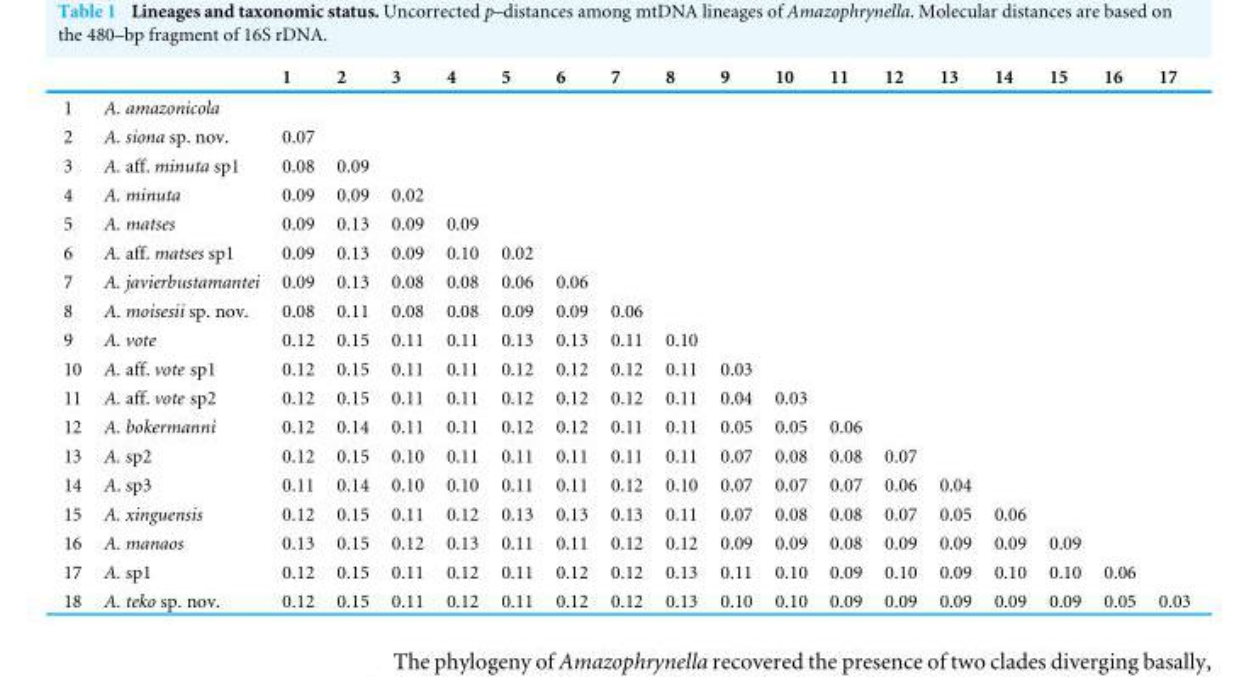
<table><thead><tr><td></td><td></td><td>1</td><td>2</td><td>3</td><td>4</td><td>5</td><td>6</td><td>7</td><td>8</td><td>9</td><td>10</td><td>11</td><td>12</td><td>13</td><td>14</td><td>15</td><td>16</td><td>17</td></tr></thead><tbody><tr><td>1</td><td>A. amazonicola</td><td></td><td></td><td></td><td></td><td></td><td></td><td></td><td></td><td></td><td></td><td></td><td></td><td></td><td></td><td></td><td></td><td></td></tr><tr><td>2</td><td>A. siona sp. nov.</td><td>0.07</td><td></td><td></td><td></td><td></td><td></td><td></td><td></td><td></td><td></td><td></td><td></td><td></td><td></td><td></td><td></td><td></td></tr><tr><td>3</td><td>A. aff. minuta sp1</td><td>0.08</td><td>0.09</td><td></td><td></td><td></td><td></td><td></td><td></td><td></td><td></td><td></td><td></td><td></td><td></td><td></td><td></td><td></td></tr><tr><td>4</td><td>A. minuta</td><td>0.09</td><td>0.09</td><td>0.02</td><td></td><td></td><td></td><td></td><td></td><td></td><td></td><td></td><td></td><td></td><td></td><td></td><td></td><td></td></tr><tr><td>5</td><td>A. matses</td><td>0.09</td><td>0.13</td><td>0.09</td><td>0.09</td><td></td><td></td><td></td><td></td><td></td><td></td><td></td><td></td><td></td><td></td><td></td><td></td><td></td></tr><tr><td>6</td><td>A. aff. matses sp1</td><td>0.09</td><td>0.13</td><td>0.09</td><td>0.10</td><td>0.02</td><td></td><td></td><td></td><td></td><td></td><td></td><td></td><td></td><td></td><td></td><td></td><td></td></tr><tr><td>7</td><td>A. javierbustamantei</td><td>0.09</td><td>0.13</td><td>0.08</td><td>0.08</td><td>0.06</td><td>0.06</td><td></td><td></td><td></td><td></td><td></td><td></td><td></td><td></td><td></td><td></td><td></td></tr><tr><td>8</td><td>A. moisesii sp. nov.</td><td>0.08</td><td>0.11</td><td>0.08</td><td>0.08</td><td>0.09</td><td>0.09</td><td>0.06</td><td></td><td></td><td></td><td></td><td></td><td></td><td></td><td></td><td></td><td></td></tr><tr><td>9</td><td>A. vote</td><td>0.12</td><td>0.15</td><td>0.11</td><td>0.11</td><td>0.13</td><td>0.13</td><td>0.11</td><td>0.10</td><td></td><td></td><td></td><td></td><td></td><td></td><td></td><td></td><td></td></tr><tr><td>10</td><td>A. aff. vote sp1</td><td>0.12</td><td>0.15</td><td>0.11</td><td>0.11</td><td>0.12</td><td>0.12</td><td>0.12</td><td>0.11</td><td>0.03</td><td></td><td></td><td></td><td></td><td></td><td></td><td></td><td></td></tr><tr><td>11</td><td>A. aff. vote sp2</td><td>0.12</td><td>0.15</td><td>0.11</td><td>0.11</td><td>0.12</td><td>0.12</td><td>0.12</td><td>0.11</td><td>0.04</td><td>0.03</td><td></td><td></td><td></td><td></td><td></td><td></td><td></td></tr><tr><td>12</td><td>A. bokermanni</td><td>0.12</td><td>0.14</td><td>0.11</td><td>0.11</td><td>0.12</td><td>0.12</td><td>0.11</td><td>0.11</td><td>0.05</td><td>0.05</td><td>0.06</td><td></td><td></td><td></td><td></td><td></td><td></td></tr><tr><td>13</td><td>A. sp2</td><td>0.12</td><td>0.15</td><td>0.10</td><td>0.11</td><td>0.11</td><td>0.11</td><td>0.11</td><td>0.11</td><td>0.07</td><td>0.08</td><td>0.08</td><td>0.07</td><td></td><td></td><td></td><td></td><td></td></tr><tr><td>14</td><td>A. sp3</td><td>0.11</td><td>0.14</td><td>0.10</td><td>0.10</td><td>0.11</td><td>0.11</td><td>0.12</td><td>0.10</td><td>0.07</td><td>0.07</td><td>0.07</td><td>0.06</td><td>0.04</td><td></td><td></td><td></td><td></td></tr><tr><td>15</td><td>A. xinguensis</td><td>0.12</td><td>0.15</td><td>0.11</td><td>0.12</td><td>0.13</td><td>0.13</td><td>0.13</td><td>0.11</td><td>0.07</td><td>0.08</td><td>0.08</td><td>0.07</td><td>0.05</td><td>0.06</td><td></td><td></td><td></td></tr><tr><td>16</td><td>A. manaos</td><td>0.13</td><td>0.15</td><td>0.12</td><td>0.13</td><td>0.11</td><td>0.11</td><td>0.12</td><td>0.12</td><td>0.09</td><td>0.09</td><td>0.08</td><td>0.09</td><td>0.09</td><td>0.09</td><td>0.09</td><td></td><td></td></tr><tr><td>17</td><td>A. sp1</td><td>0.12</td><td>0.15</td><td>0.11</td><td>0.12</td><td>0.11</td><td>0.12</td><td>0.12</td><td>0.13</td><td>0.11</td><td>0.10</td><td>0.09</td><td>0.10</td><td>0.09</td><td>0.10</td><td>0.10</td><td>0.06</td><td></td></tr><tr><td>18</td><td>A. teko sp. nov.</td><td>0.12</td><td>0.15</td><td>0.11</td><td>0.12</td><td>0.11</td><td>0.12</td><td>0.12</td><td>0.13</td><td>0.10</td><td>0.10</td><td>0.09</td><td>0.09</td><td>0.09</td><td>0.09</td><td>0.09</td><td>0.05</td><td>0.03</td></tr></tbody></table>